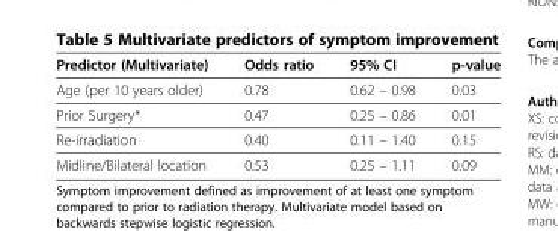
<table><thead><tr><td>Predictor (Multivariate)</td><td>Odds ratio</td><td>95% CI</td><td>p-value</td></tr></thead><tbody><tr><td>Age (per 10 years older)</td><td>0.78</td><td>0.62 – 0.98</td><td>0.03</td></tr><tr><td>Prior Surgery*</td><td>0.47</td><td>0.25 – 0.86</td><td>0.01</td></tr><tr><td>Re-irradiation</td><td>0.40</td><td>0.11 – 1.40</td><td>0.15</td></tr><tr><td>Midline/Bilateral location</td><td>0.53</td><td>0.25 – 1.11</td><td>0.09</td></tr></tbody></table>